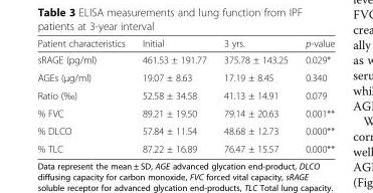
<table><thead><tr><td>Patient characteristics</td><td>Initial</td><td>3 yrs.</td><td>p-value</td></tr></thead><tbody><tr><td>sRAGE (pg/ml)</td><td>461.53 ± 191.77</td><td>375.78 ± 143.25</td><td>0.029*</td></tr><tr><td>AGEs (μg/ml)</td><td>19.07 ± 8.63</td><td>17.19 ± 8.45</td><td>0.340</td></tr><tr><td>Ratio (‰)</td><td>52.58 ± 34.58</td><td>41.13 ± 14.91</td><td>0.079</td></tr><tr><td>% FVC</td><td>89.21 ± 19.50</td><td>79.14 ± 20.63</td><td>0.001**</td></tr><tr><td>% DLCO</td><td>57.84 ± 11.54</td><td>48.68 ± 12.73</td><td>0.000**</td></tr><tr><td>% TLC</td><td>87.22 ± 16.89</td><td>76.47 ± 15.57</td><td>0.000**</td></tr></tbody></table>